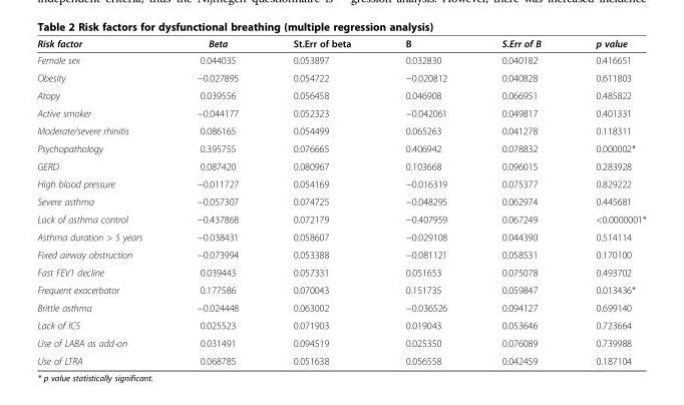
<table><thead><tr><td>Risk factor</td><td>Beta</td><td>St.Err of beta</td><td>B</td><td>S.Err of B</td><td>p value</td></tr></thead><tbody><tr><td>Female sex</td><td>0.044035</td><td>0.053897</td><td>0.032830</td><td>0.040182</td><td>0.416651</td></tr><tr><td>Obesity</td><td>−0.027895</td><td>0.054722</td><td>−0.020812</td><td>0.040828</td><td>0.611803</td></tr><tr><td>Atopy</td><td>0.039556</td><td>0.056458</td><td>0.046908</td><td>0.066951</td><td>0.485822</td></tr><tr><td>Active smoker</td><td>−0.044177</td><td>0.052323</td><td>−0.042061</td><td>0.049817</td><td>0.401331</td></tr><tr><td>Moderate/severe rhinitis</td><td>0.086165</td><td>0.054499</td><td>0.065263</td><td>0.041278</td><td>0.118311</td></tr><tr><td>Psychopathology</td><td>0.395755</td><td>0.076665</td><td>0.406942</td><td>0.078832</td><td>0.000002*</td></tr><tr><td>GERD</td><td>0.087420</td><td>0.080967</td><td>0.103668</td><td>0.096015</td><td>0.283928</td></tr><tr><td>High blood pressure</td><td>−0.011727</td><td>0.054169</td><td>−0.016319</td><td>0.075377</td><td>0.829222</td></tr><tr><td>Severe asthma</td><td>−0.057307</td><td>0.074725</td><td>−0.048295</td><td>0.062974</td><td>0.445681</td></tr><tr><td>Lack of asthma control</td><td>−0.437868</td><td>0.072179</td><td>−0.407959</td><td>0.067249</td><td>&lt;0.0000001*</td></tr><tr><td>Asthma duration &gt; 5 years</td><td>−0.038431</td><td>0.058607</td><td>−0.029108</td><td>0.044390</td><td>0.514114</td></tr><tr><td>Fixed airway obstruction</td><td>−0.073994</td><td>0.053388</td><td>−0.081121</td><td>0.058531</td><td>0.170100</td></tr><tr><td>Fast FEV1 decline</td><td>0.039443</td><td>0.057331</td><td>0.051653</td><td>0.075078</td><td>0.493702</td></tr><tr><td>Frequent exacerbator</td><td>0.177586</td><td>0.070043</td><td>0.151735</td><td>0.059847</td><td>0.013436*</td></tr><tr><td>Brittle asthma</td><td>−0.024448</td><td>0.063002</td><td>−0.036526</td><td>0.094127</td><td>0.699140</td></tr><tr><td>Lack of ICS</td><td>0.025523</td><td>0.071903</td><td>0.019043</td><td>0.053646</td><td>0.723664</td></tr><tr><td>Use of LABA as add-on</td><td>0.031491</td><td>0.094519</td><td>0.025350</td><td>0.076089</td><td>0.739988</td></tr><tr><td>Use of LTRA</td><td>0.068785</td><td>0.051638</td><td>0.056558</td><td>0.042459</td><td>0.187104</td></tr></tbody></table>